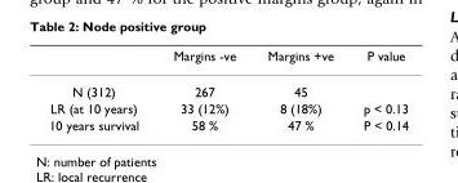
<table><thead><tr><td></td><td>Margins -ve</td><td>Margins +ve</td><td>P value</td></tr></thead><tbody><tr><td>N (312)</td><td>267</td><td>45</td><td></td></tr><tr><td>LR (at 10 years)</td><td>33 (12%)</td><td>8 (18%)</td><td>p &lt; 0.13</td></tr><tr><td>10 years survival</td><td>58 %</td><td>47 %</td><td>P &lt; 0.14</td></tr></tbody></table>